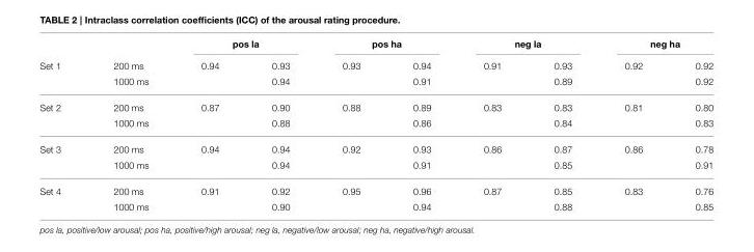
<table><thead><tr><td rowspan="2">Set 1</td><td rowspan="2">200 ms</td><td colspan="2">pos la</td><td colspan="2">pos ha</td><td colspan="2">neg la</td><td colspan="2">neg ha</td></tr><tr><td>0.94</td><td>0.93</td><td>0.93</td><td>0.94</td><td>0.91</td><td>0.93</td><td>0.92</td><td>0.92</td></tr></thead><tbody><tr><td></td><td>1000 ms</td><td></td><td>0.94</td><td></td><td>0.91</td><td></td><td>0.89</td><td></td><td>0.92</td></tr><tr><td rowspan="2">Set 2</td><td>200 ms</td><td>0.87</td><td>0.90</td><td>0.88</td><td>0.89</td><td>0.83</td><td>0.83</td><td>0.81</td><td>0.80</td></tr><tr><td>1000 ms</td><td></td><td>0.88</td><td></td><td>0.86</td><td></td><td>0.84</td><td></td><td>0.83</td></tr><tr><td rowspan="2">Set 3</td><td>200 ms</td><td>0.94</td><td>0.94</td><td>0.92</td><td>0.93</td><td>0.86</td><td>0.87</td><td>0.86</td><td>0.78</td></tr><tr><td>1000 ms</td><td></td><td>0.94</td><td></td><td>0.91</td><td></td><td>0.85</td><td></td><td>0.91</td></tr><tr><td rowspan="2">Set 4</td><td>200 ms</td><td>0.91</td><td>0.92</td><td>0.95</td><td>0.96</td><td>0.87</td><td>0.85</td><td>0.83</td><td>0.76</td></tr><tr><td>1000 ms</td><td></td><td>0.90</td><td></td><td>0.94</td><td></td><td>0.88</td><td></td><td>0.85</td></tr></tbody></table>